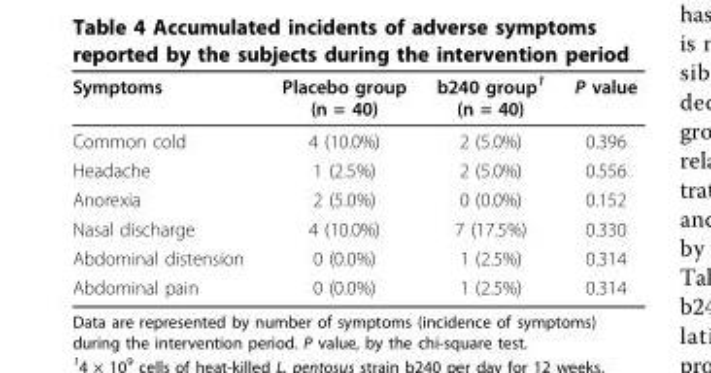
<table><thead><tr><td>Symptoms</td><td>Placebo group (n = 40)</td><td>b240 group<sup>1</sup> (n = 40)</td><td>P value</td></tr></thead><tbody><tr><td>Common cold</td><td>4 (10.0%)</td><td>2 (5.0%)</td><td>0.396</td></tr><tr><td>Headache</td><td>1 (2.5%)</td><td>2 (5.0%)</td><td>0.556</td></tr><tr><td>Anorexia</td><td>2 (5.0%)</td><td>0 (0.0%)</td><td>0.152</td></tr><tr><td>Nasal discharge</td><td>4 (10.0%)</td><td>7 (17.5%)</td><td>0.330</td></tr><tr><td>Abdominal distension</td><td>0 (0.0%)</td><td>1 (2.5%)</td><td>0.314</td></tr><tr><td>Abdominal pain</td><td>0 (0.0%)</td><td>1 (2.5%)</td><td>0.314</td></tr></tbody></table>